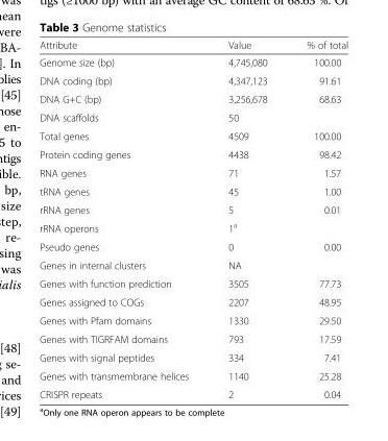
<table><thead><tr><td>Attribute</td><td>Value</td><td>% of total</td></tr></thead><tbody><tr><td>Genome size (bp)</td><td>4,745,080</td><td>100.00</td></tr><tr><td>DNA coding (bp)</td><td>4,347,123</td><td>91.61</td></tr><tr><td>DNA G+C (bp)</td><td>3,256,678</td><td>68.63</td></tr><tr><td>DNA scaffolds</td><td>50</td><td></td></tr><tr><td>Total genes</td><td>4509</td><td>100.00</td></tr><tr><td>Protein coding genes</td><td>4438</td><td>98.42</td></tr><tr><td>RNA genes</td><td>71</td><td>1.57</td></tr><tr><td>tRNA genes</td><td>45</td><td>1.00</td></tr><tr><td>rRNA genes</td><td>5</td><td>0.01</td></tr><tr><td>rRNA operons</td><td>1<sup>a</sup></td><td></td></tr><tr><td>Pseudo genes</td><td>0</td><td>0.00</td></tr><tr><td>Genes in internal clusters</td><td>NA</td><td></td></tr><tr><td>Genes with function prediction</td><td>3505</td><td>77.73</td></tr><tr><td>Genes assigned to COGs</td><td>2207</td><td>48.95</td></tr><tr><td>Genes with Pfam domains</td><td>1330</td><td>29.50</td></tr><tr><td>Genes with TIGRFAM domains</td><td>793</td><td>17.59</td></tr><tr><td>Genes with signal peptides</td><td>334</td><td>7.41</td></tr><tr><td>Genes with transmembrane helices</td><td>1140</td><td>25.28</td></tr><tr><td>CRISPR repeats</td><td>2</td><td>0.04</td></tr></tbody></table>